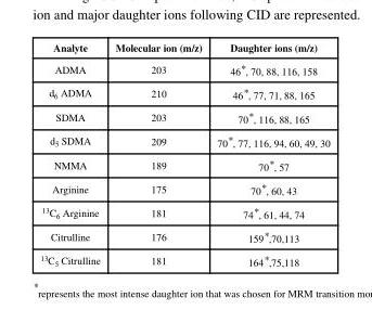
<table><thead><tr><td>Analyte</td><td>Molecular ion (m/z)</td><td>Daughter ions (m/z)</td></tr></thead><tbody><tr><td>ADMA</td><td>203</td><td>46*, 70, 88, 116, 158</td></tr><tr><td>d<sub>6</sub> ADMA</td><td>210</td><td>46*, 77, 71, 88, 165</td></tr><tr><td>SDMA</td><td>203</td><td>70*, 116, 88, 165</td></tr><tr><td>d<sub>5</sub> SDMA</td><td>209</td><td>70*, 77, 116, 94, 60, 49, 30</td></tr><tr><td>NMMA</td><td>189</td><td>70*, 57</td></tr><tr><td>Arginine</td><td>175</td><td>70*, 60, 43</td></tr><tr><td><sup>13</sup>C<sub>6</sub> Arginine</td><td>181</td><td>74*, 61, 44, 74</td></tr><tr><td>Citrulline</td><td>176</td><td>159*,70,113</td></tr><tr><td><sup>13</sup>C<sub>5</sub> Citrulline</td><td>181</td><td>164*,75,118</td></tr></tbody></table>